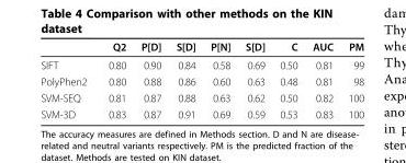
<table><thead><tr><td></td><td>Q2</td><td>P[D]</td><td>S[D]</td><td>P[N]</td><td>S[D]</td><td>C</td><td>AUC</td><td>PM</td></tr></thead><tbody><tr><td>SIFT</td><td>0.80</td><td>0.90</td><td>0.84</td><td>0.58</td><td>0.69</td><td>0.50</td><td>0.81</td><td>99</td></tr><tr><td>PolyPhen2</td><td>0.80</td><td>0.88</td><td>0.86</td><td>0.60</td><td>0.63</td><td>0.48</td><td>0.81</td><td>98</td></tr><tr><td>SVM-SEQ</td><td>0.81</td><td>0.87</td><td>0.88</td><td>0.63</td><td>0.62</td><td>0.50</td><td>0.82</td><td>100</td></tr><tr><td>SVM-3D</td><td>0.83</td><td>0.87</td><td>0.91</td><td>0.69</td><td>0.59</td><td>0.53</td><td>0.83</td><td>100</td></tr></tbody></table>